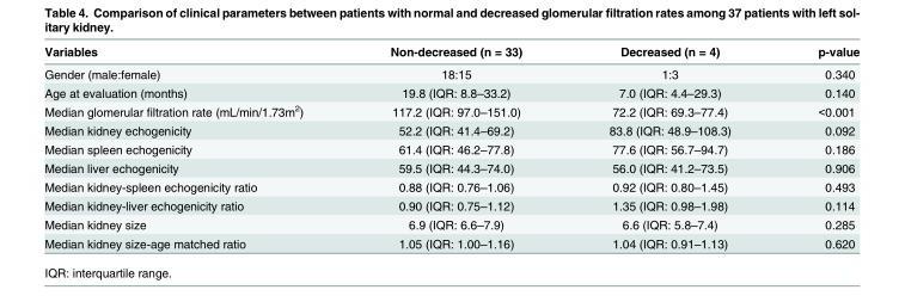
<table><thead><tr><td>Variables</td><td>Non-decreased (n = 33)</td><td>Decreased (n = 4)</td><td>p-value</td></tr></thead><tbody><tr><td>Gender (male:female)</td><td>18:15</td><td>1:3</td><td>0.340</td></tr><tr><td>Age at evaluation (months)</td><td>19.8 (IQR: 8.8–33.2)</td><td>7.0 (IQR: 4.4–29.3)</td><td>0.140</td></tr><tr><td>Median glomerular filtration rate (mL/min/1.73m<sup>2</sup>)</td><td>117.2 (IQR: 97.0–151.0)</td><td>72.2 (IQR: 69.3–77.4)</td><td>&lt;0.001</td></tr><tr><td>Median kidney echogenicity</td><td>52.2 (IQR: 41.4–69.2)</td><td>83.8 (IQR: 48.9–108.3)</td><td>0.092</td></tr><tr><td>Median spleen echogenicity</td><td>61.4 (IQR: 46.2–77.8)</td><td>77.6 (IQR: 56.7–94.7)</td><td>0.186</td></tr><tr><td>Median liver echogenicity</td><td>59.5 (IQR: 44.3–74.0)</td><td>56.0 (IQR: 41.2–73.5)</td><td>0.906</td></tr><tr><td>Median kidney-spleen echogenicity ratio</td><td>0.88 (IQR: 0.76–1.06)</td><td>0.92 (IQR: 0.80–1.45)</td><td>0.493</td></tr><tr><td>Median kidney-liver echogenicity ratio</td><td>0.90 (IQR: 0.75–1.12)</td><td>1.35 (IQR: 0.98–1.98)</td><td>0.114</td></tr><tr><td>Median kidney size</td><td>6.9 (IQR: 6.6–7.9)</td><td>6.6 (IQR: 5.8–7.4)</td><td>0.285</td></tr><tr><td>Median kidney size-age matched ratio</td><td>1.05 (IQR: 1.00–1.16)</td><td>1.04 (IQR: 0.91–1.13)</td><td>0.620</td></tr></tbody></table>